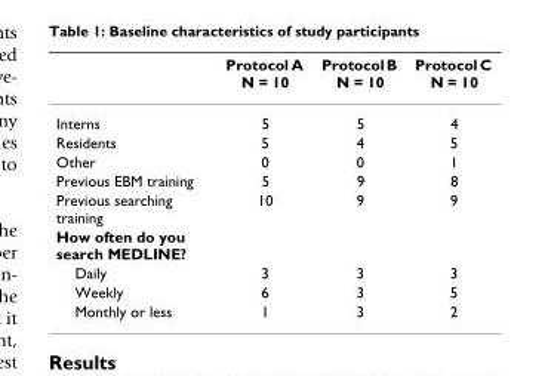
<table><thead><tr><td></td><td>Protocol A N = 10</td><td>Protocol B N = 10</td><td>Protocol C N = 10</td></tr></thead><tbody><tr><td>Interns</td><td>5</td><td>5</td><td>4</td></tr><tr><td>Residents</td><td>5</td><td>4</td><td>5</td></tr><tr><td>Other</td><td>0</td><td>0</td><td>1</td></tr><tr><td>Previous EBM training</td><td>5</td><td>9</td><td>8</td></tr><tr><td>Previous searching training</td><td>10</td><td>9</td><td>9</td></tr><tr><td colspan="4">How often do you search MEDLINE?</td></tr><tr><td>Daily</td><td>3</td><td>3</td><td>3</td></tr><tr><td>Weekly</td><td>6</td><td>3</td><td>5</td></tr><tr><td>Monthly or less</td><td>1</td><td>3</td><td>2</td></tr></tbody></table>